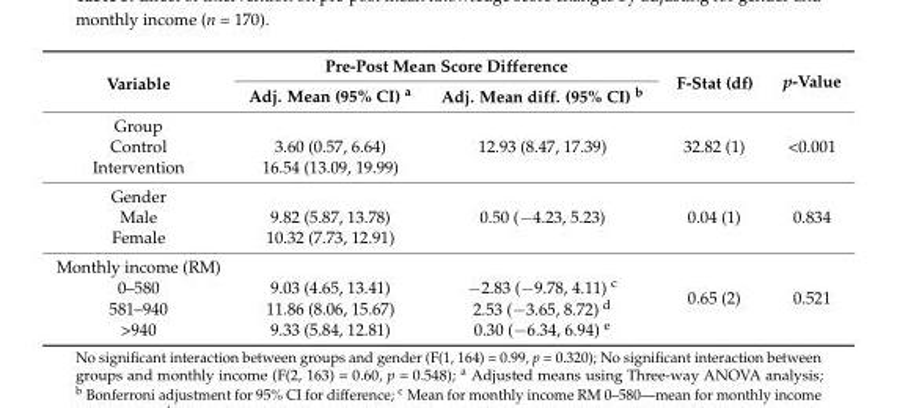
<table><thead><tr><td rowspan="2">Variable</td><td colspan="2">Pre-Post Mean Score Difference</td><td rowspan="2">F-Stat (df)</td><td rowspan="2">p-Value</td></tr><tr><td>Adj. Mean (95% CI) <sup>a</sup></td><td>Adj. Mean diff. (95% CI) <sup>b</sup></td></tr></thead><tbody><tr><td>Group Control Intervention</td><td>3.60 (0.57, 6.64) 16.54 (13.09, 19.99)</td><td>12.93 (8.47, 17.39)</td><td>32.82 (1)</td><td>&lt;0.001</td></tr><tr><td>Gender Male Female</td><td>9.82 (5.87, 13.78) 10.32 (7.73, 12.91)</td><td>0.50 (−4.23, 5.23)</td><td>0.04 (1)</td><td>0.834</td></tr><tr><td>Monthly income (RM) 0–580 581–940 &gt;940</td><td>9.03 (4.65, 13.41) 11.86 (8.06, 15.67) 9.33 (5.84, 12.81)</td><td>−2.83 (−9.78, 4.11) <sup>c</sup> 2.53 (−3.65, 8.72) <sup>d</sup> 0.30 (−6.34, 6.94) <sup>e</sup></td><td>0.65 (2)</td><td>0.521</td></tr></tbody></table>